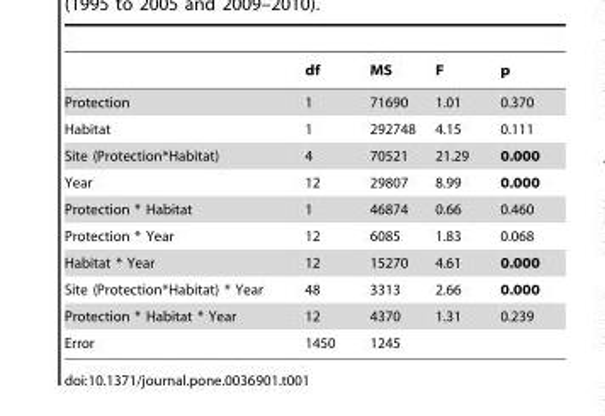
<table><thead><tr><td></td><td>df</td><td>MS</td><td>F</td><td>p</td></tr></thead><tbody><tr><td>Protection</td><td>1</td><td>71690</td><td>1.01</td><td>0.370</td></tr><tr><td>Habitat</td><td>1</td><td>292748</td><td>4.15</td><td>0.111</td></tr><tr><td>Site (Protection*Habitat)</td><td>4</td><td>70521</td><td>21.29</td><td>0.000</td></tr><tr><td>Year</td><td>12</td><td>29807</td><td>8.99</td><td>0.000</td></tr><tr><td>Protection * Habitat</td><td>1</td><td>46874</td><td>0.66</td><td>0.460</td></tr><tr><td>Protection * Year</td><td>12</td><td>6085</td><td>1.83</td><td>0.068</td></tr><tr><td>Habitat * Year</td><td>12</td><td>15270</td><td>4.61</td><td>0.000</td></tr><tr><td>Site (Protection*Habitat) * Year</td><td>48</td><td>3313</td><td>2.66</td><td>0.000</td></tr><tr><td>Protection * Habitat * Year</td><td>12</td><td>4370</td><td>1.31</td><td>0.239</td></tr><tr><td>Error</td><td>1450</td><td>1245</td><td></td><td></td></tr></tbody></table>